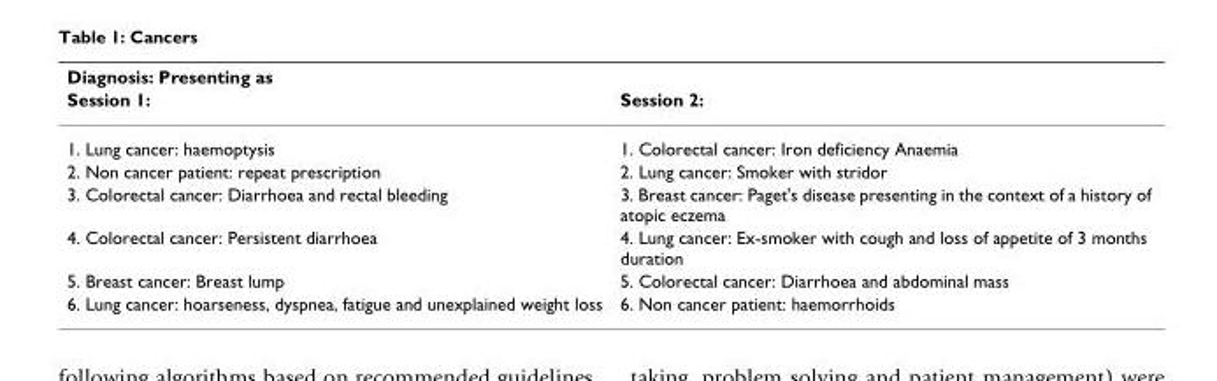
<table><thead><tr><td colspan="2">Diagnosis: Presenting as</td></tr><tr><td>Session 1:</td><td>Session 2:</td></tr></thead><tbody><tr><td>1. Lung cancer: haemoptysis</td><td>1. Colorectal cancer: Iron deficiency Anaemia</td></tr><tr><td>2. Non cancer patient: repeat prescription</td><td>2. Lung cancer: Smoker with stridor</td></tr><tr><td>3. Colorectal cancer: Diarrhoea and rectal bleeding</td><td>3. Breast cancer: Paget&#x27;s disease presenting in the context of a history of atopic eczema</td></tr><tr><td>4. Colorectal cancer: Persistent diarrhoea</td><td>4. Lung cancer: Ex-smoker with cough and loss of appetite of 3 months duration</td></tr><tr><td>5. Breast cancer: Breast lump</td><td>5. Colorectal cancer: Diarrhoea and abdominal mass</td></tr><tr><td>6. Lung cancer: hoarseness, dyspnea, fatigue and unexplained weight loss</td><td>6. Non cancer patient: haemorrhoids</td></tr></tbody></table>